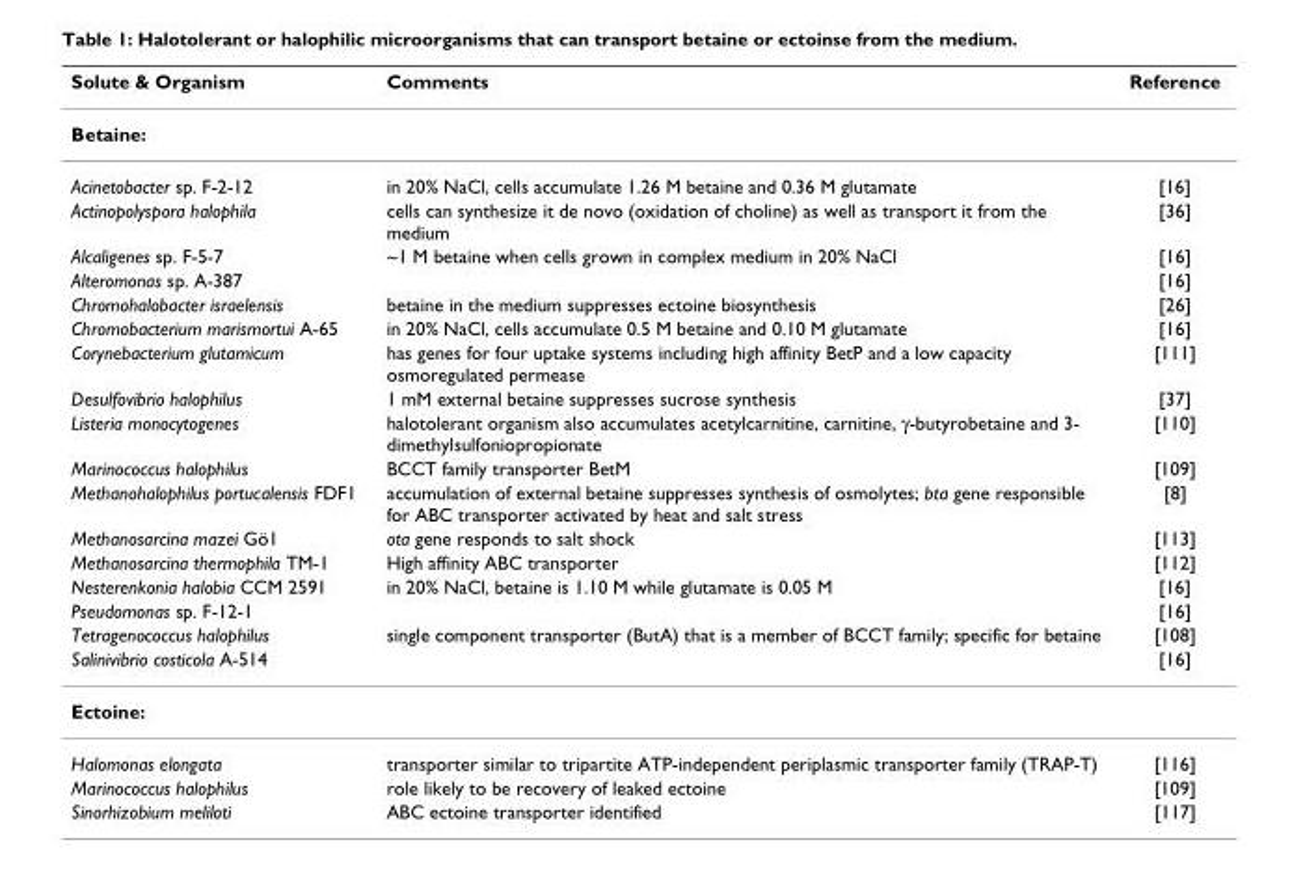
<table><thead><tr><td>Solute &amp; Organism</td><td>Comments</td><td>Reference</td></tr></thead><tbody><tr><td colspan="3">Betaine:</td></tr><tr><td>Acinetobacter sp. F-2-12</td><td>in 20% NaCl, cells accumulate 1.26 M betaine and 0.36 M glutamate</td><td>[16]</td></tr><tr><td>Actinopolyspora halophila</td><td>cells can synthesize it de novo (oxidation of choline) as well as transport it from the medium</td><td>[36]</td></tr><tr><td>Alcaligenes sp. F-5-7</td><td>~1 M betaine when cells grown in complex medium in 20% NaCl</td><td>[16]</td></tr><tr><td>Alteromonas sp. A-387</td><td></td><td>[16]</td></tr><tr><td>Chromohalobacter israelensis</td><td>betaine in the medium suppresses ectoine biosynthesis</td><td>[26]</td></tr><tr><td>Chromobacterium marismortui A-65</td><td>in 20% NaCl, cells accumulate 0.5 M betaine and 0.10 M glutamate</td><td>[16]</td></tr><tr><td>Corynebacterium glutamicum</td><td>has genes for four uptake systems including high affinity BetP and a low capacity osmoregulated permease</td><td>[111]</td></tr><tr><td>Desulfovibrio halophilus</td><td>1 mM external betaine suppresses sucrose synthesis</td><td>[37]</td></tr><tr><td>Listeria monocytogenes</td><td>halotolerant organism also accumulates acetylcarnitine, carnitine, γ-butyrobetaine and 3- dimethylsulfoniopropionate</td><td>[110]</td></tr><tr><td>Marinococcus halophilus</td><td>BCCT family transporter BetM</td><td>[109]</td></tr><tr><td>Methanohalophilus portucalensis FDF1</td><td>accumulation of external betaine suppresses synthesis of osmolytes; bta gene responsible for ABC transporter activated by heat and salt stress</td><td>[8]</td></tr><tr><td>Methanosarcina mazei Gö1</td><td>ota gene responds to salt shock</td><td>[113]</td></tr><tr><td>Methanosarcina thermophila TM-1</td><td>High affinity ABC transporter</td><td>[112]</td></tr><tr><td>Nesterenkonia halobia CCM 2591</td><td>in 20% NaCl, betaine is 1.10 M while glutamate is 0.05 M</td><td>[16]</td></tr><tr><td>Pseudomonas sp. F-12-1</td><td></td><td>[16]</td></tr><tr><td>Tetragenococcus halophilus</td><td>single component transporter (ButA) that is a member of BCCT family; specific for betaine</td><td>[108]</td></tr><tr><td>Salinivibrio costicola A-514</td><td></td><td>[16]</td></tr><tr><td colspan="3">Ectoine:</td></tr><tr><td>Halomonas elongata</td><td>transporter similar to tripartite ATP-independent periplasmic transporter family (TRAP-T)</td><td>[116]</td></tr><tr><td>Marinococcus halophilus</td><td>role likely to be recovery of leaked ectoine</td><td>[109]</td></tr><tr><td>Sinorhizobium meliloti</td><td>ABC ectoine transporter identified</td><td>[117]</td></tr></tbody></table>